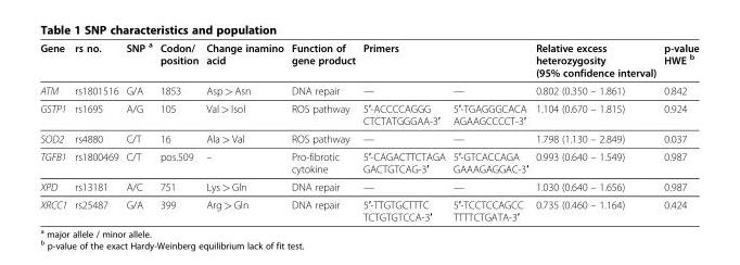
<table><thead><tr><td rowspan="2">Gene ATM</td><td rowspan="2">rs no. rs1801516</td><td rowspan="2">SNP <sup>a</sup> G/A</td><td rowspan="2">Codon/ position 1853</td><td rowspan="2">Change inamino acid Asp &gt; Asn</td><td rowspan="2">Function of gene product DNA repair</td><td colspan="2">Primers</td><td rowspan="2">Relative excess heterozygosity (95% confidence interval) 0.802 (0.350 – 1.861)</td><td rowspan="2">p-value HWE <sup>b</sup> 0.842</td></tr><tr><td>—</td><td>—</td></tr></thead><tbody><tr><td>GSTP1</td><td>rs1695</td><td>A/G</td><td>105</td><td>Val &gt; Isol</td><td>ROS pathway</td><td>5′-ACCCCAGGG CTCTATGGGAA-3′</td><td>5′-TGAGGGCACA AGAAGCCCCT-3′</td><td>1.104 (0.670 – 1.815)</td><td>0.924</td></tr><tr><td>SOD2</td><td>rs4880</td><td>C/T</td><td>16</td><td>Ala &gt; Val</td><td>ROS pathway</td><td>—</td><td>—</td><td>1.798 (1.130 – 2.849)</td><td>0.037</td></tr><tr><td>TGFB1</td><td>rs1800469</td><td>C/T</td><td>pos.509</td><td>–</td><td>Pro-fibrotic cytokine</td><td>5′-CAGACTTCTAGA GACTGTCAG-3′</td><td>5′-GTCACCAGA GAAAGAGGAC-3′</td><td>0.993 (0.640 – 1.549)</td><td>0.987</td></tr><tr><td>XPD</td><td>rs13181</td><td>A/C</td><td>751</td><td>Lys &gt; Gln</td><td>DNA repair</td><td>—</td><td>—</td><td>1.030 (0.640 – 1.656)</td><td>0.987</td></tr><tr><td>XRCC1</td><td>rs25487</td><td>G/A</td><td>399</td><td>Arg &gt; Gln</td><td>DNA repair</td><td>5′-TTGTGCTTTC TCTGTGTCCA-3′</td><td>5′-TCCTCCAGCC TTTTCTGATA-3′</td><td>0.735 (0.460 – 1.164)</td><td>0.424</td></tr></tbody></table>